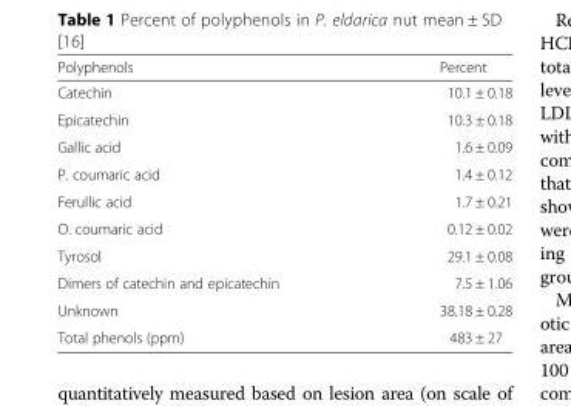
<table><thead><tr><td>Polyphenols</td><td>Percent</td></tr></thead><tbody><tr><td>Catechin</td><td>10.1 ± 0.18</td></tr><tr><td>Epicatechin</td><td>10.3 ± 0.18</td></tr><tr><td>Gallic acid</td><td>1.6 ± 0.09</td></tr><tr><td>P. coumaric acid</td><td>1.4 ± 0.12</td></tr><tr><td>Ferullic acid</td><td>1.7 ± 0.21</td></tr><tr><td>O. coumaric acid</td><td>0.12 ± 0.02</td></tr><tr><td>Tyrosol</td><td>29.1 ± 0.08</td></tr><tr><td>Dimers of catechin and epicatechin</td><td>7.5 ± 1.06</td></tr><tr><td>Unknown</td><td>38.18 ± 0.28</td></tr><tr><td>Total phenols (ppm)</td><td>483 ± 27</td></tr></tbody></table>